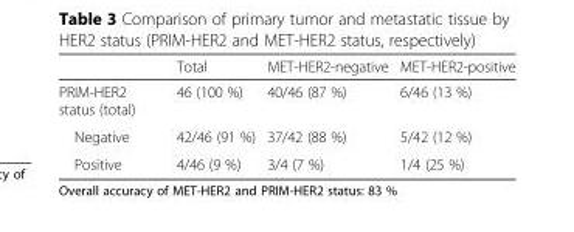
<table><thead><tr><td></td><td>Total</td><td>MET-HER2-negative</td><td>MET-HER2-positive</td></tr></thead><tbody><tr><td>PRIM-HER2 status (total)</td><td>46 (100 %)</td><td>40/46 (87 %)</td><td>6/46 (13 %)</td></tr><tr><td>Negative</td><td>42/46 (91 %)</td><td>37/42 (88 %)</td><td>5/42 (12 %)</td></tr><tr><td>Positive</td><td>4/46 (9 %)</td><td>3/4 (7 %)</td><td>1/4 (25 %)</td></tr></tbody></table>